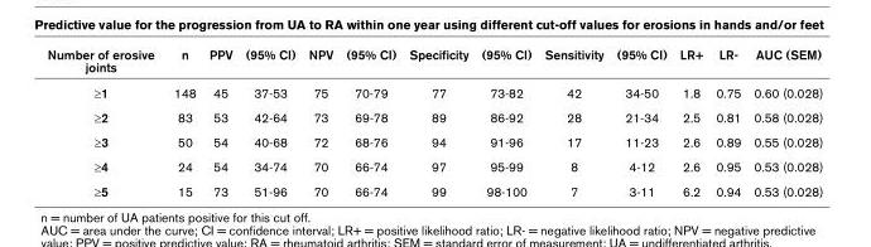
<table><thead><tr><td>Number of erosive joints</td><td>n</td><td>PPV</td><td>(95% CI)</td><td>NPV</td><td>(95% CI)</td><td>Specificity</td><td>(95% CI)</td><td>Sensitivity</td><td>(95% CI)</td><td>LR+</td><td>LR-</td><td>AUC (SEM)</td></tr></thead><tbody><tr><td>≥1</td><td>148</td><td>45</td><td>37-53</td><td>75</td><td>70-79</td><td>77</td><td>73-82</td><td>42</td><td>34-50</td><td>1.8</td><td>0.75</td><td>0.60 (0.028)</td></tr><tr><td>≥2</td><td>83</td><td>53</td><td>42-64</td><td>73</td><td>69-78</td><td>89</td><td>86-92</td><td>28</td><td>21-34</td><td>2.5</td><td>0.81</td><td>0.58 (0.028)</td></tr><tr><td>≥3</td><td>50</td><td>54</td><td>40-68</td><td>72</td><td>68-76</td><td>94</td><td>91-96</td><td>17</td><td>11-23</td><td>2.6</td><td>0.89</td><td>0.55 (0.028)</td></tr><tr><td>≥4</td><td>24</td><td>54</td><td>34-74</td><td>70</td><td>66-74</td><td>97</td><td>95-99</td><td>8</td><td>4-12</td><td>2.6</td><td>0.95</td><td>0.53 (0.028)</td></tr><tr><td>≥5</td><td>15</td><td>73</td><td>51-96</td><td>70</td><td>66-74</td><td>99</td><td>98-100</td><td>7</td><td>3-11</td><td>6.2</td><td>0.94</td><td>0.53 (0.028)</td></tr></tbody></table>